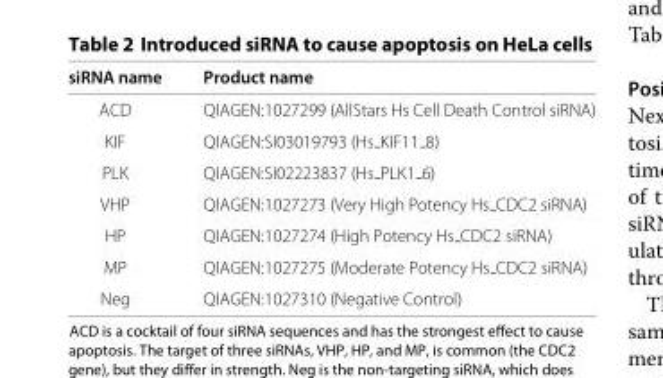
<table><thead><tr><td>siRNA name</td><td>Product name</td></tr></thead><tbody><tr><td>ACD</td><td>QIAGEN:1027299 (AllStars Hs Cell Death Control siRNA)</td></tr><tr><td>KIF</td><td>QIAGEN:SI03019793 (Hs <sub>KIF11</sub> 8)</td></tr><tr><td>PLK</td><td>QIAGEN:SI02223837 (Hs <sub>PLK1</sub> 6)</td></tr><tr><td>VHP</td><td>QIAGEN:1027273 (Very High Potency Hs CDC2 siRNA)</td></tr><tr><td>HP</td><td>QIAGEN:1027274 (High Potency Hs CDC2 siRNA)</td></tr><tr><td>MP</td><td>QIAGEN:1027275 (Moderate Potency Hs CDC2 siRNA)</td></tr><tr><td>Neg</td><td>QIAGEN:1027310 (Negative Control)</td></tr></tbody></table>